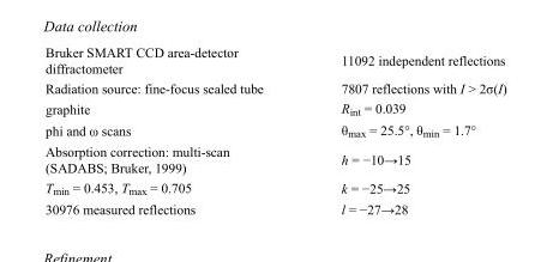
<table><tbody><tr><td>Bruker SMART CCD area-detector diffractometer</td><td>11092 independent reflections</td></tr><tr><td>Radiation source: fine-focus sealed tube</td><td>7807 reflections with I &gt; 2σ(I)</td></tr><tr><td>graphite</td><td>R<sub>int</sub> = 0.039</td></tr><tr><td>phi and ω scans</td><td>θ<sub>max</sub> = 25.5°, θ<sub>min</sub> = 1.7°</td></tr><tr><td>Absorption correction: multi-scan (SADABS; Bruker, 1999)</td><td>h = −10→15</td></tr><tr><td>T<sub>min</sub> = 0.453, T<sub>max</sub> = 0.705</td><td>k = −25→25</td></tr><tr><td>30976 measured reflections</td><td>l = −27→28</td></tr></tbody></table>